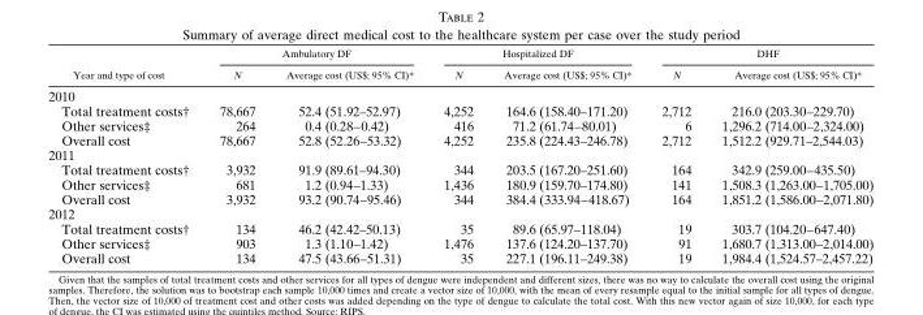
<table><thead><tr><td rowspan="2">Year and type of cost</td><td colspan="2">Ambulatory DF</td><td colspan="2">Hospitalized DF</td><td colspan="2">DHF</td></tr><tr><td>N</td><td>Average cost (US$; 95% CI)*</td><td>N</td><td>Average cost (US$; 95% CI)*</td><td>N</td><td>Average cost (US$; 95% CI)*</td></tr></thead><tbody><tr><td colspan="7">2010</td></tr><tr><td>Total treatment costs†</td><td>78,667</td><td>52.4 (51.92–52.97)</td><td>4,252</td><td>164.6 (158.40–171.20)</td><td>2,712</td><td>216.0 (203.30–229.70)</td></tr><tr><td>Other services‡</td><td>264</td><td>0.4 (0.28–0.42)</td><td>416</td><td>71.2 (61.74–80.01)</td><td>6</td><td>1,296.2 (714.00–2,324.00)</td></tr><tr><td>Overall cost</td><td>78,667</td><td>52.8 (52.26–53.32)</td><td>4,252</td><td>235.8 (224.43–246.78)</td><td>2,712</td><td>1,512.2 (929.71–2,544.03)</td></tr><tr><td colspan="7">2011</td></tr><tr><td>Total treatment costs†</td><td>3,932</td><td>91.9 (89.61–94.30)</td><td>344</td><td>203.5 (167.20–251.60)</td><td>164</td><td>342.9 (259.00–435.50)</td></tr><tr><td>Other services‡</td><td>681</td><td>1.2 (0.94–1.33)</td><td>1,436</td><td>180.9 (159.70–174.80)</td><td>141</td><td>1,508.3 (1,263.00–1,705.00)</td></tr><tr><td>Overall cost</td><td>3,932</td><td>93.2 (90.74–95.46)</td><td>344</td><td>384.4 (333.94–418.67)</td><td>164</td><td>1,851.2 (1,586.00–2,071.80)</td></tr><tr><td colspan="7">2012</td></tr><tr><td>Total treatment costs†</td><td>134</td><td>46.2 (42.42–50.13)</td><td>35</td><td>89.6 (65.97–118.04)</td><td>19</td><td>303.7 (104.20–647.40)</td></tr><tr><td>Other services‡</td><td>903</td><td>1.3 (1.10–1.42)</td><td>1,476</td><td>137.6 (124.20–137.70)</td><td>91</td><td>1,680.7 (1,313.00–2,014.00)</td></tr><tr><td>Overall cost</td><td>134</td><td>47.5 (43.66–51.31)</td><td>35</td><td>227.1 (196.11–249.38)</td><td>19</td><td>1,984.4 (1,524.57–2,457.22)</td></tr></tbody></table>